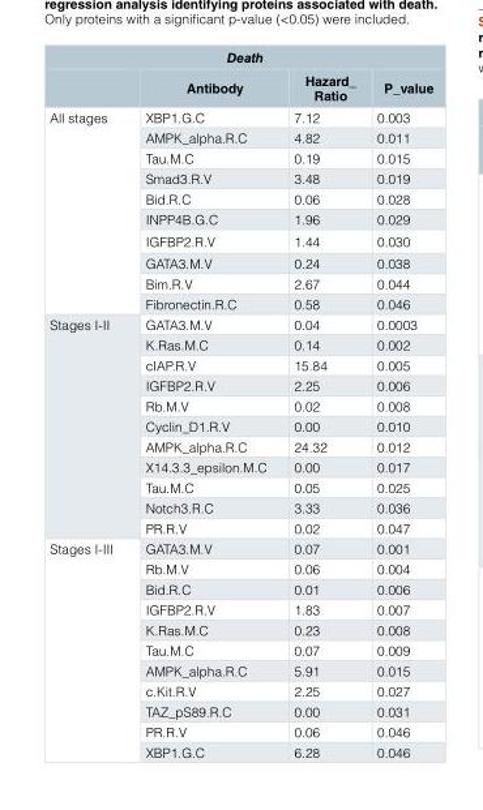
<table><thead><tr><td colspan="4">Death</td></tr><tr><td></td><td>Antibody</td><td>Hazard_ Ratio</td><td>P_value</td></tr></thead><tbody><tr><td rowspan="10">All stages</td><td>XBP1.G.C</td><td>7.12</td><td>0.003</td></tr><tr><td>AMPK_alpha.R.C</td><td>4.82</td><td>0.011</td></tr><tr><td>Tau.M.C</td><td>0.19</td><td>0.015</td></tr><tr><td>Smad3.R.V</td><td>3.48</td><td>0.019</td></tr><tr><td>Bid.R.C</td><td>0.06</td><td>0.028</td></tr><tr><td>INPP4B.G.C</td><td>1.96</td><td>0.029</td></tr><tr><td>IGFBP2.R.V</td><td>1.44</td><td>0.030</td></tr><tr><td>GATA3.M.V</td><td>0.24</td><td>0.038</td></tr><tr><td>Bim.R.V</td><td>2.67</td><td>0.044</td></tr><tr><td>Fibronectin.R.C</td><td>0.58</td><td>0.046</td></tr><tr><td rowspan="11">Stages I-II</td><td>GATA3.M.V</td><td>0.04</td><td>0.0003</td></tr><tr><td>K.Ras.M.C</td><td>0.14</td><td>0.002</td></tr><tr><td>cIAP.R.V</td><td>15.84</td><td>0.005</td></tr><tr><td>IGFBP2.R.V</td><td>2.25</td><td>0.006</td></tr><tr><td>Rb.M.V</td><td>0.02</td><td>0.008</td></tr><tr><td>Cyclin_D1.R.V</td><td>0.00</td><td>0.010</td></tr><tr><td>AMPK_alpha.R.C</td><td>24.32</td><td>0.012</td></tr><tr><td>X14.3.3_epsilon.M.C</td><td>0.00</td><td>0.017</td></tr><tr><td>Tau.M.C</td><td>0.05</td><td>0.025</td></tr><tr><td>Notch3.R.C</td><td>3.33</td><td>0.036</td></tr><tr><td>PR.R.V</td><td>0.02</td><td>0.047</td></tr><tr><td rowspan="11">Stages I-III</td><td>GATA3.M.V</td><td>0.07</td><td>0.001</td></tr><tr><td>Rb.M.V</td><td>0.06</td><td>0.004</td></tr><tr><td>Bid.R.C</td><td>0.01</td><td>0.006</td></tr><tr><td>IGFBP2.R.V</td><td>1.83</td><td>0.007</td></tr><tr><td>K.Ras.M.C</td><td>0.23</td><td>0.008</td></tr><tr><td>Tau.M.C</td><td>0.07</td><td>0.009</td></tr><tr><td>AMPK_alpha.R.C</td><td>5.91</td><td>0.015</td></tr><tr><td>c.Kit.R.V</td><td>2.25</td><td>0.027</td></tr><tr><td>TAZ_pS89.R.C</td><td>0.00</td><td>0.031</td></tr><tr><td>PR.R.V</td><td>0.06</td><td>0.046</td></tr><tr><td>XBP1.G.C</td><td>6.28</td><td>0.046</td></tr></tbody></table>